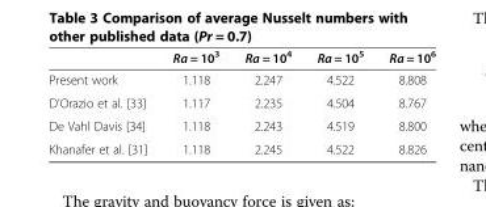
<table><thead><tr><td></td><td>Ra = 10<sup>3</sup></td><td>Ra = 10<sup>4</sup></td><td>Ra = 10<sup>5</sup></td><td>Ra = 10<sup>6</sup></td></tr></thead><tbody><tr><td>Present work</td><td>1.118</td><td>2.247</td><td>4.522</td><td>8.808</td></tr><tr><td>D&#x27;Orazio et al. [33]</td><td>1.117</td><td>2.235</td><td>4.504</td><td>8.767</td></tr><tr><td>De Vahl Davis [34]</td><td>1.118</td><td>2.243</td><td>4.519</td><td>8.800</td></tr><tr><td>Khanafer et al. [31]</td><td>1.118</td><td>2.245</td><td>4.522</td><td>8.826</td></tr></tbody></table>